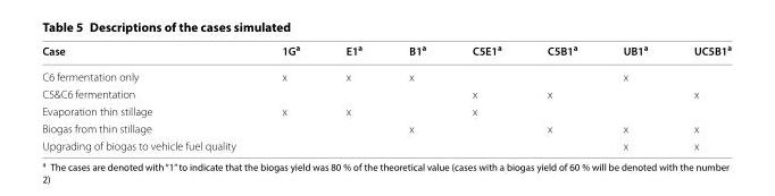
<table><thead><tr><td>Case</td><td>1G<sup>a</sup></td><td>E1<sup>a</sup></td><td>B1<sup>a</sup></td><td>C5E1<sup>a</sup></td><td>C5B1<sup>a</sup></td><td>UB1<sup>a</sup></td><td>UC5B1<sup>a</sup></td></tr></thead><tbody><tr><td>C6 fermentation only</td><td>x</td><td>x</td><td>x</td><td></td><td></td><td>x</td><td></td></tr><tr><td>C5&amp;C6 fermentation</td><td></td><td></td><td></td><td>x</td><td>x</td><td></td><td>x</td></tr><tr><td>Evaporation thin stillage</td><td>x</td><td>x</td><td></td><td>x</td><td></td><td></td><td></td></tr><tr><td>Biogas from thin stillage</td><td></td><td></td><td>x</td><td></td><td>x</td><td>x</td><td>x</td></tr><tr><td>Upgrading of biogas to vehicle fuel quality</td><td></td><td></td><td></td><td></td><td></td><td>x</td><td>x</td></tr></tbody></table>